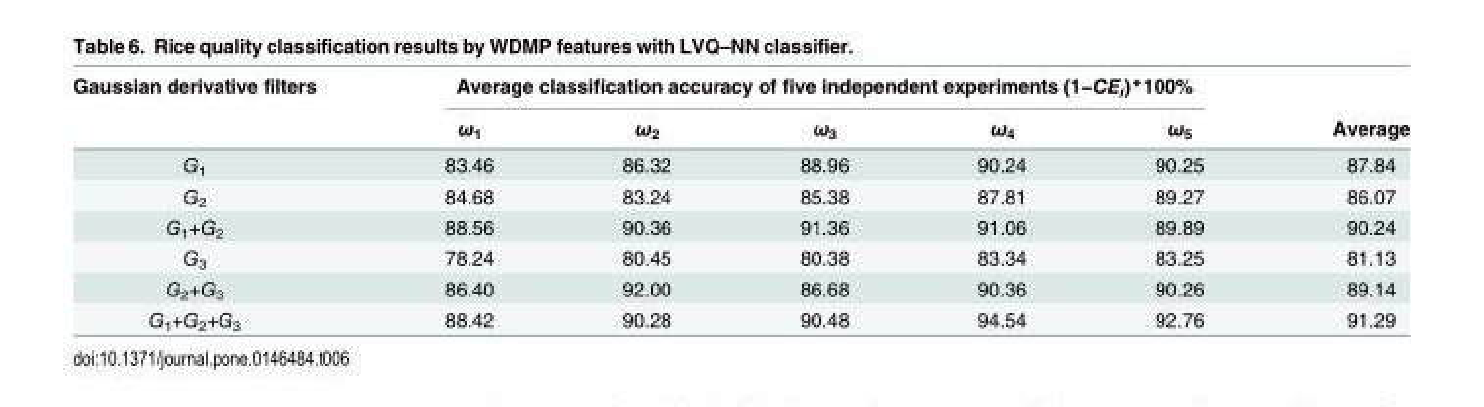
<table><thead><tr><td rowspan="2">Gaussian derivative filters</td><td colspan="5">Average classification accuracy of five independent experiments (1−CE<sub>i</sub>)*100%</td><td rowspan="2">Average</td></tr><tr><td>ω<sub>1</sub></td><td>ω<sub>2</sub></td><td>ω<sub>3</sub></td><td>ω<sub>4</sub></td><td>ω<sub>5</sub></td></tr></thead><tbody><tr><td>G<sub>1</sub></td><td>83.46</td><td>86.32</td><td>88.96</td><td>90.24</td><td>90.25</td><td>87.84</td></tr><tr><td>G<sub>2</sub></td><td>84.68</td><td>83.24</td><td>85.38</td><td>87.81</td><td>89.27</td><td>86.07</td></tr><tr><td>G<sub>1</sub>+G<sub>2</sub></td><td>88.56</td><td>90.36</td><td>91.36</td><td>91.06</td><td>89.89</td><td>90.24</td></tr><tr><td>G<sub>3</sub></td><td>78.24</td><td>80.45</td><td>80.38</td><td>83.34</td><td>83.25</td><td>81.13</td></tr><tr><td>G<sub>2</sub>+G<sub>3</sub></td><td>86.40</td><td>92.00</td><td>86.68</td><td>90.36</td><td>90.26</td><td>89.14</td></tr><tr><td>G<sub>1</sub>+G<sub>2</sub>+G<sub>3</sub></td><td>88.42</td><td>90.28</td><td>90.48</td><td>94.54</td><td>92.76</td><td>91.29</td></tr></tbody></table>